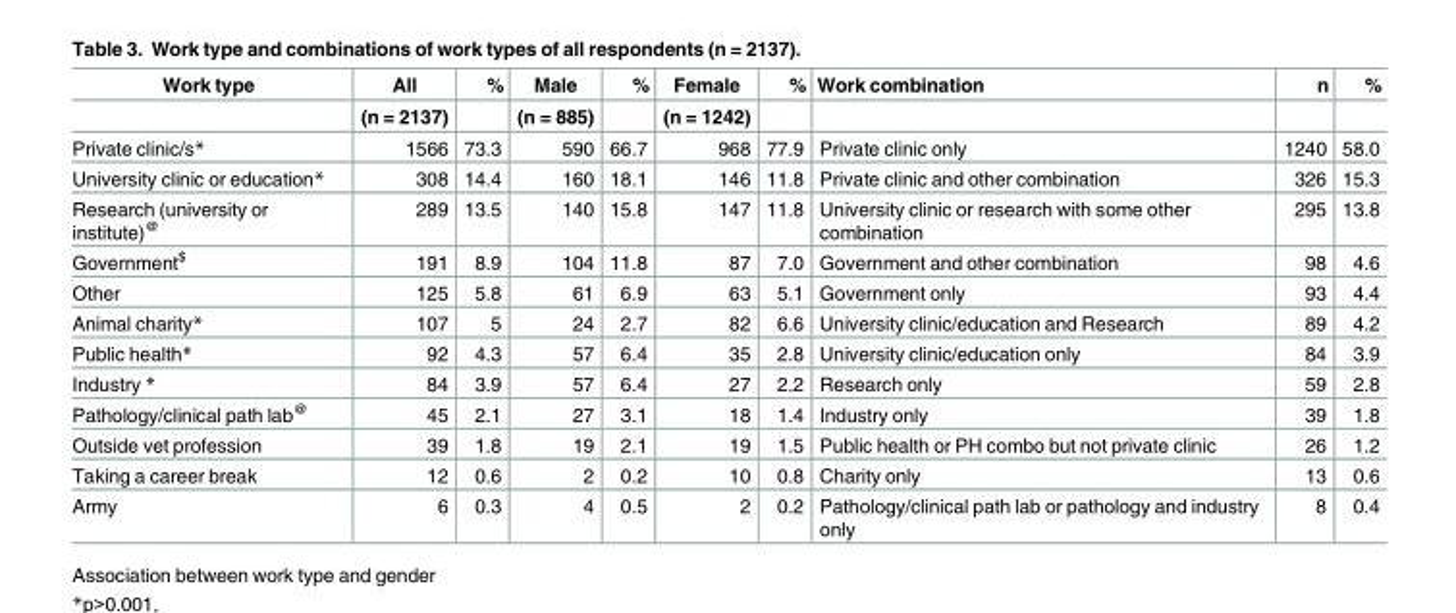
<table><thead><tr><td rowspan="2">Work type</td><td rowspan="2">All (n = 2137)</td><td rowspan="2">%</td><td rowspan="2">Male (n = 885)</td><td rowspan="2">%</td><td rowspan="2">Female (n = 1242)</td><td rowspan="2">%</td><td rowspan="2">Work combination</td><td rowspan="2">n</td><td rowspan="2">%</td></tr><tr></tr></thead><tbody><tr><td>Private clinic/s*</td><td>1566</td><td>73.3</td><td>590</td><td>66.7</td><td>968</td><td>77.9</td><td>Private clinic only</td><td>1240</td><td>58.0</td></tr><tr><td>University clinic or education*</td><td>308</td><td>14.4</td><td>160</td><td>18.1</td><td>146</td><td>11.8</td><td>Private clinic and other combination</td><td>326</td><td>15.3</td></tr><tr><td>Research (university or institute)<sup>@</sup></td><td>289</td><td>13.5</td><td>140</td><td>15.8</td><td>147</td><td>11.8</td><td>University clinic or research with some other combination</td><td>295</td><td>13.8</td></tr><tr><td>Government<sup>$</sup></td><td>191</td><td>8.9</td><td>104</td><td>11.8</td><td>87</td><td>7.0</td><td>Government and other combination</td><td>98</td><td>4.6</td></tr><tr><td>Other</td><td>125</td><td>5.8</td><td>61</td><td>6.9</td><td>63</td><td>5.1</td><td>Government only</td><td>93</td><td>4.4</td></tr><tr><td>Animal charity*</td><td>107</td><td>5</td><td>24</td><td>2.7</td><td>82</td><td>6.6</td><td>University clinic/education and Research</td><td>89</td><td>4.2</td></tr><tr><td>Public health*</td><td>92</td><td>4.3</td><td>57</td><td>6.4</td><td>35</td><td>2.8</td><td>University clinic/education only</td><td>84</td><td>3.9</td></tr><tr><td>Industry *</td><td>84</td><td>3.9</td><td>57</td><td>6.4</td><td>27</td><td>2.2</td><td>Research only</td><td>59</td><td>2.8</td></tr><tr><td>Pathology/clinical path lab<sup>@</sup></td><td>45</td><td>2.1</td><td>27</td><td>3.1</td><td>18</td><td>1.4</td><td>Industry only</td><td>39</td><td>1.8</td></tr><tr><td>Outside vet profession</td><td>39</td><td>1.8</td><td>19</td><td>2.1</td><td>19</td><td>1.5</td><td>Public health or PH combo but not private clinic</td><td>26</td><td>1.2</td></tr><tr><td>Taking a career break</td><td>12</td><td>0.6</td><td>2</td><td>0.2</td><td>10</td><td>0.8</td><td>Charity only</td><td>13</td><td>0.6</td></tr><tr><td>Army</td><td>6</td><td>0.3</td><td>4</td><td>0.5</td><td>2</td><td>0.2</td><td>Pathology/clinical path lab or pathology and industry only</td><td>8</td><td>0.4</td></tr></tbody></table>